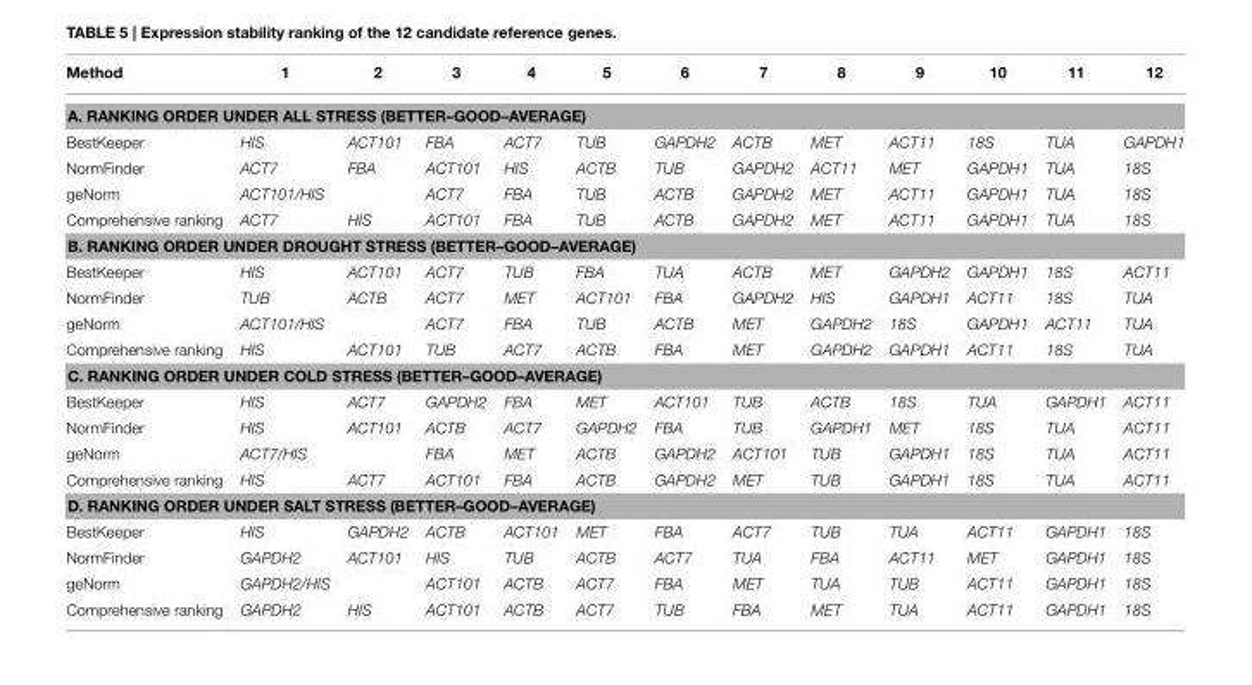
<table><thead><tr><td>Method</td><td>1</td><td>2</td><td>3</td><td>4</td><td>5</td><td>6</td><td>7</td><td>8</td><td>9</td><td>10</td><td>11</td><td>12</td></tr></thead><tbody><tr><td colspan="13">A. RANKING ORDER UNDER ALL STRESS (BETTER–GOOD–AVERAGE)</td></tr><tr><td>BestKeeper</td><td>HIS</td><td>ACT101</td><td>FBA</td><td>ACT7</td><td>TUB</td><td>GAPDH2</td><td>ACTB</td><td>MET</td><td>ACT11</td><td>18S</td><td>TUA</td><td>GAPDH1</td></tr><tr><td>NormFinder</td><td>ACT7</td><td>FBA</td><td>ACT101</td><td>HIS</td><td>ACTB</td><td>TUB</td><td>GAPDH2</td><td>ACT11</td><td>MET</td><td>GAPDH1</td><td>TUA</td><td>18S</td></tr><tr><td>geNorm</td><td>ACT101/HIS</td><td></td><td>ACT7</td><td>FBA</td><td>TUB</td><td>ACTB</td><td>GAPDH2</td><td>MET</td><td>ACT11</td><td>GAPDH1</td><td>TUA</td><td>18S</td></tr><tr><td>Comprehensive ranking</td><td>ACT7</td><td>HIS</td><td>ACT101</td><td>FBA</td><td>TUB</td><td>ACTB</td><td>GAPDH2</td><td>MET</td><td>ACT11</td><td>GAPDH1</td><td>TUA</td><td>18S</td></tr><tr><td colspan="13">B. RANKING ORDER UNDER DROUGHT STRESS (BETTER–GOOD–AVERAGE)</td></tr><tr><td>BestKeeper</td><td>HIS</td><td>ACT101</td><td>ACT7</td><td>TUB</td><td>FBA</td><td>TUA</td><td>ACTB</td><td>MET</td><td>GAPDH2</td><td>GAPDH1</td><td>18S</td><td>ACT11</td></tr><tr><td>NormFinder</td><td>TUB</td><td>ACTB</td><td>ACT7</td><td>MET</td><td>ACT101</td><td>FBA</td><td>GAPDH2</td><td>HIS</td><td>GAPDH1</td><td>ACT11</td><td>18S</td><td>TUA</td></tr><tr><td>geNorm</td><td>ACT101/HIS</td><td></td><td>ACT7</td><td>FBA</td><td>TUB</td><td>ACTB</td><td>MET</td><td>GAPDH2</td><td>18S</td><td>GAPDH1</td><td>ACT11</td><td>TUA</td></tr><tr><td>Comprehensive ranking</td><td>HIS</td><td>ACT101</td><td>TUB</td><td>ACT7</td><td>ACTB</td><td>FBA</td><td>MET</td><td>GAPDH2</td><td>GAPDH1</td><td>ACT11</td><td>18S</td><td>TUA</td></tr><tr><td colspan="13">C. RANKING ORDER UNDER COLD STRESS (BETTER–GOOD–AVERAGE)</td></tr><tr><td>BestKeeper</td><td>HIS</td><td>ACT7</td><td>GAPDH2</td><td>FBA</td><td>MET</td><td>ACT101</td><td>TUB</td><td>ACTB</td><td>18S</td><td>TUA</td><td>GAPDH1</td><td>ACT11</td></tr><tr><td>NormFinder</td><td>HIS</td><td>ACT101</td><td>ACTB</td><td>ACT7</td><td>GAPDH2</td><td>FBA</td><td>TUB</td><td>GAPDH1</td><td>MET</td><td>18S</td><td>TUA</td><td>ACT11</td></tr><tr><td>geNorm</td><td>ACT7/HIS</td><td></td><td>FBA</td><td>MET</td><td>ACTB</td><td>GAPDH2</td><td>ACT101</td><td>TUB</td><td>GAPDH1</td><td>18S</td><td>TUA</td><td>ACT11</td></tr><tr><td>Comprehensive ranking</td><td>HIS</td><td>ACT7</td><td>ACT101</td><td>FBA</td><td>ACTB</td><td>GAPDH2</td><td>MET</td><td>TUB</td><td>GAPDH1</td><td>18S</td><td>TUA</td><td>ACT11</td></tr><tr><td colspan="13">D. RANKING ORDER UNDER SALT STRESS (BETTER–GOOD–AVERAGE)</td></tr><tr><td>BestKeeper</td><td>HIS</td><td>GAPDH2</td><td>ACTB</td><td>ACT101</td><td>MET</td><td>FBA</td><td>ACT7</td><td>TUB</td><td>TUA</td><td>ACT11</td><td>GAPDH1</td><td>18S</td></tr><tr><td>NormFinder</td><td>GAPDH2</td><td>ACT101</td><td>HIS</td><td>TUB</td><td>ACTB</td><td>ACT7</td><td>TUA</td><td>FBA</td><td>ACT11</td><td>MET</td><td>GAPDH1</td><td>18S</td></tr><tr><td>geNorm</td><td>GAPDH2/HIS</td><td></td><td>ACT101</td><td>ACTB</td><td>ACT7</td><td>FBA</td><td>MET</td><td>TUA</td><td>TUB</td><td>ACT11</td><td>GAPDH1</td><td>18S</td></tr><tr><td>Comprehensive ranking</td><td>GAPDH2</td><td>HIS</td><td>ACT101</td><td>ACTB</td><td>ACT7</td><td>TUB</td><td>FBA</td><td>MET</td><td>TUA</td><td>ACT11</td><td>GAPDH1</td><td>18S</td></tr></tbody></table>